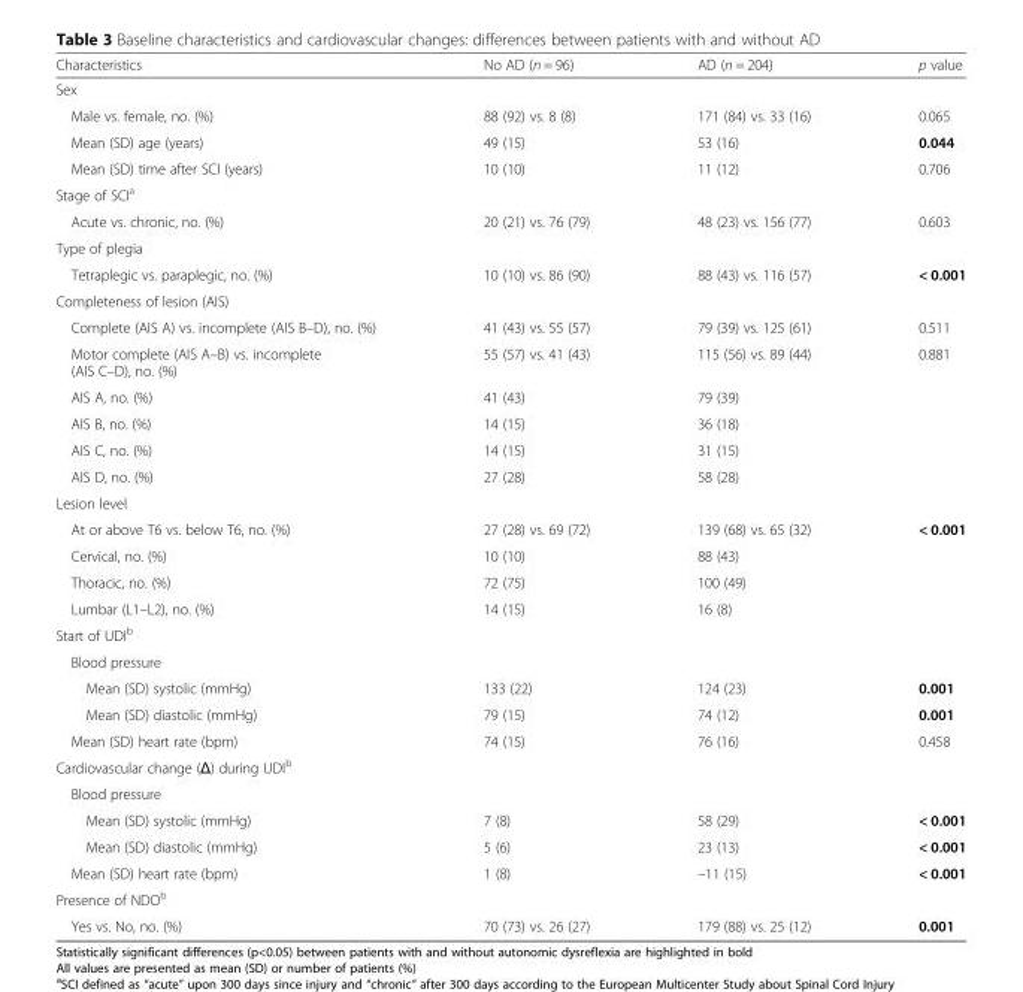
<table><thead><tr><td>Characteristics</td><td>No AD (n = 96)</td><td>AD (n = 204)</td><td>p value</td></tr></thead><tbody><tr><td colspan="4">Sex</td></tr><tr><td>Male vs. female, no. (%)</td><td>88 (92) vs. 8 (8)</td><td>171 (84) vs. 33 (16)</td><td>0.065</td></tr><tr><td>Mean (SD) age (years)</td><td>49 (15)</td><td>53 (16)</td><td>0.044</td></tr><tr><td>Mean (SD) time after SCI (years)</td><td>10 (10)</td><td>11 (12)</td><td>0.706</td></tr><tr><td colspan="4">Stage of SCI<sup>a</sup></td></tr><tr><td>Acute vs. chronic, no. (%)</td><td>20 (21) vs. 76 (79)</td><td>48 (23) vs. 156 (77)</td><td>0.603</td></tr><tr><td colspan="4">Type of plegia</td></tr><tr><td>Tetraplegic vs. paraplegic, no. (%)</td><td>10 (10) vs. 86 (90)</td><td>88 (43) vs. 116 (57)</td><td>&lt; 0.001</td></tr><tr><td colspan="4">Completeness of lesion (AIS)</td></tr><tr><td>Complete (AIS A) vs. incomplete (AIS B–D), no. (%)</td><td>41 (43) vs. 55 (57)</td><td>79 (39) vs. 125 (61)</td><td>0.511</td></tr><tr><td>Motor complete (AIS A–B) vs. incomplete (AIS C–D), no. (%)</td><td>55 (57) vs. 41 (43)</td><td>115 (56) vs. 89 (44)</td><td>0.881</td></tr><tr><td>AIS A, no. (%)</td><td>41 (43)</td><td>79 (39)</td><td></td></tr><tr><td>AIS B, no. (%)</td><td>14 (15)</td><td>36 (18)</td><td></td></tr><tr><td>AIS C, no. (%)</td><td>14 (15)</td><td>31 (15)</td><td></td></tr><tr><td>AIS D, no. (%)</td><td>27 (28)</td><td>58 (28)</td><td></td></tr><tr><td colspan="4">Lesion level</td></tr><tr><td>At or above T6 vs. below T6, no. (%)</td><td>27 (28) vs. 69 (72)</td><td>139 (68) vs. 65 (32)</td><td>&lt; 0.001</td></tr><tr><td>Cervical, no. (%)</td><td>10 (10)</td><td>88 (43)</td><td></td></tr><tr><td>Thoracic, no. (%)</td><td>72 (75)</td><td>100 (49)</td><td></td></tr><tr><td>Lumbar (L1–L2), no. (%)</td><td>14 (15)</td><td>16 (8)</td><td></td></tr><tr><td colspan="4">Start of UDI<sup>b</sup></td></tr><tr><td colspan="4">Blood pressure</td></tr><tr><td>Mean (SD) systolic (mmHg)</td><td>133 (22)</td><td>124 (23)</td><td>0.001</td></tr><tr><td>Mean (SD) diastolic (mmHg)</td><td>79 (15)</td><td>74 (12)</td><td>0.001</td></tr><tr><td>Mean (SD) heart rate (bpm)</td><td>74 (15)</td><td>76 (16)</td><td>0.458</td></tr><tr><td colspan="4">Cardiovascular change (Δ) during UDI<sup>b</sup></td></tr><tr><td colspan="4">Blood pressure</td></tr><tr><td>Mean (SD) systolic (mmHg)</td><td>7 (8)</td><td>58 (29)</td><td>&lt; 0.001</td></tr><tr><td>Mean (SD) diastolic (mmHg)</td><td>5 (6)</td><td>23 (13)</td><td>&lt; 0.001</td></tr><tr><td>Mean (SD) heart rate (bpm)</td><td>1 (8)</td><td>–11 (15)</td><td>&lt; 0.001</td></tr><tr><td colspan="4">Presence of NDO<sup>b</sup></td></tr><tr><td>Yes vs. No, no. (%)</td><td>70 (73) vs. 26 (27)</td><td>179 (88) vs. 25 (12)</td><td>0.001</td></tr></tbody></table>